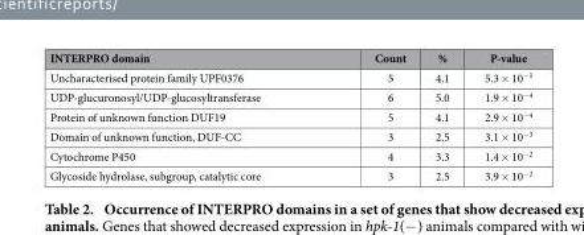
<table><thead><tr><td>INTERPRO domain</td><td>Count</td><td>%</td><td>P-value</td></tr></thead><tbody><tr><td>Uncharacterised protein family UPF0376</td><td>5</td><td>4.1</td><td>5.3 × 10<sup>−5</sup></td></tr><tr><td>UDP-glucuronosyl/UDP-glucosyltransferase</td><td>6</td><td>5.0</td><td>1.9 × 10<sup>−4</sup></td></tr><tr><td>Protein of unknown function DUF19</td><td>5</td><td>4.1</td><td>2.9 × 10<sup>−4</sup></td></tr><tr><td>Domain of unknown function, DUF-CC</td><td>3</td><td>2.5</td><td>3.1 × 10<sup>−3</sup></td></tr><tr><td>Cytochrome P450</td><td>4</td><td>3.3</td><td>1.4 × 10<sup>−2</sup></td></tr><tr><td>Glycoside hydrolase, subgroup, catalytic core</td><td>3</td><td>2.5</td><td>3.9 × 10<sup>−2</sup></td></tr></tbody></table>